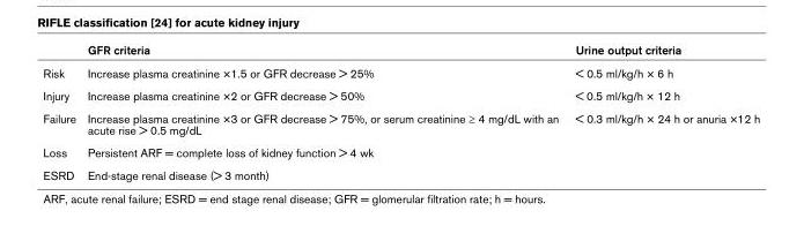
<table><thead><tr><td></td><td>GFR criteria</td><td>Urine output criteria</td></tr></thead><tbody><tr><td>Risk</td><td>Increase plasma creatinine ×1.5 or GFR decrease &gt; 25%</td><td>&lt; 0.5 ml/kg/h × 6 h</td></tr><tr><td>Injury</td><td>Increase plasma creatinine ×2 or GFR decrease &gt; 50%</td><td>&lt; 0.5 ml/kg/h × 12 h</td></tr><tr><td>Failure</td><td>Increase plasma creatinine ×3 or GFR decrease &gt; 75%, or serum creatinine ≥ 4 mg/dL with an acute rise &gt; 0.5 mg/dL</td><td>&lt; 0.3 ml/kg/h × 24 h or anuria ×12 h</td></tr><tr><td>Loss</td><td>Persistent ARF = complete loss of kidney function &gt; 4 wk</td><td></td></tr><tr><td>ESRD</td><td>End-stage renal disease (&gt; 3 month)</td><td></td></tr></tbody></table>